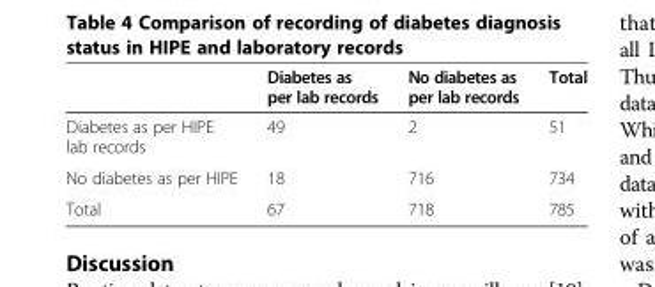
<table><thead><tr><td></td><td>Diabetes as per lab records</td><td>No diabetes as per lab records</td><td>Total</td></tr></thead><tbody><tr><td>Diabetes as per HIPE lab records</td><td>49</td><td>2</td><td>51</td></tr><tr><td>No diabetes as per HIPE</td><td>18</td><td>716</td><td>734</td></tr><tr><td>Total</td><td>67</td><td>718</td><td>785</td></tr></tbody></table>